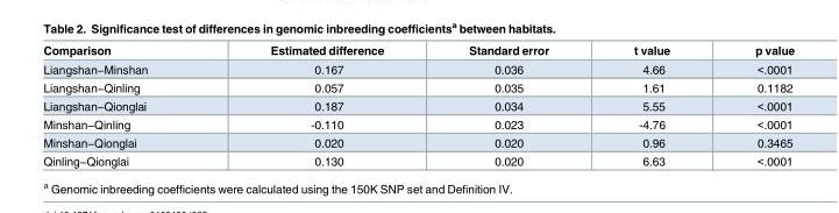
<table><thead><tr><td>Comparison</td><td>Estimated difference</td><td>Standard error</td><td>t value</td><td>p value</td></tr></thead><tbody><tr><td>Liangshan−Minshan</td><td>0.167</td><td>0.036</td><td>4.66</td><td>&lt;.0001</td></tr><tr><td>Liangshan−Qinling</td><td>0.057</td><td>0.035</td><td>1.61</td><td>0.1182</td></tr><tr><td>Liangshan−Qionglai</td><td>0.187</td><td>0.034</td><td>5.55</td><td>&lt;.0001</td></tr><tr><td>Minshan−Qinling</td><td>-0.110</td><td>0.023</td><td>-4.76</td><td>&lt;.0001</td></tr><tr><td>Minshan−Qionglai</td><td>0.020</td><td>0.020</td><td>0.96</td><td>0.3465</td></tr><tr><td>Qinling−Qionglai</td><td>0.130</td><td>0.020</td><td>6.63</td><td>&lt;.0001</td></tr></tbody></table>